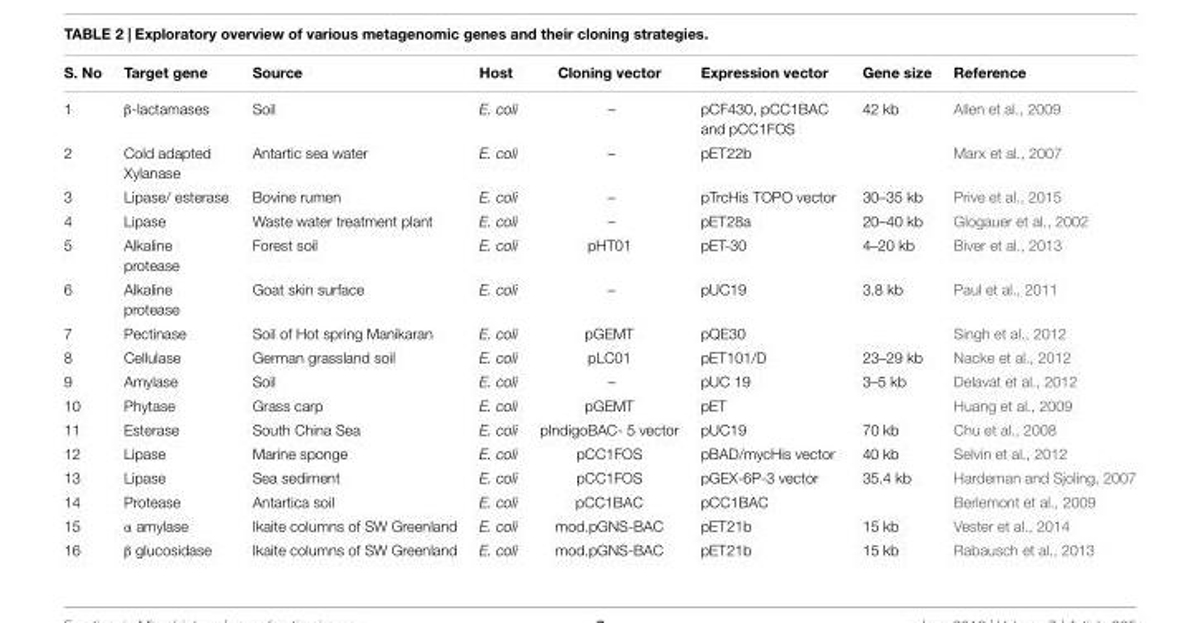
<table><thead><tr><td>S. No</td><td>Target gene</td><td>Source</td><td>Host</td><td>Cloning vector</td><td>Expression vector</td><td>Gene size</td><td>Reference</td></tr></thead><tbody><tr><td>1</td><td>β-lactamases</td><td>Soil</td><td>E. coli</td><td>–</td><td>pCF430, pCC1BAC and pCC1FOS</td><td>42 kb</td><td>Allen et al., 2009</td></tr><tr><td>2</td><td>Cold adapted Xylanase</td><td>Antartic sea water</td><td>E. coli</td><td>–</td><td>pET22b</td><td></td><td>Marx et al., 2007</td></tr><tr><td>3</td><td>Lipase/ esterase</td><td>Bovine rumen</td><td>E. coli</td><td>–</td><td>pTrcHis TOPO vector</td><td>30–35 kb</td><td>Prive et al., 2015</td></tr><tr><td>4</td><td>Lipase</td><td>Waste water treatment plant</td><td>E. coli</td><td>–</td><td>pET28a</td><td>20–40 kb</td><td>Glogauer et al., 2002</td></tr><tr><td>5</td><td>Alkaline protease</td><td>Forest soil</td><td>E. coli</td><td>pHT01</td><td>pET-30</td><td>4–20 kb</td><td>Biver et al., 2013</td></tr><tr><td>6</td><td>Alkaline protease</td><td>Goat skin surface</td><td>E. coli</td><td>–</td><td>pUC19</td><td>3.8 kb</td><td>Paul et al., 2011</td></tr><tr><td>7</td><td>Pectinase</td><td>Soil of Hot spring Manikaran</td><td>E. coli</td><td>pGEMT</td><td>pQE30</td><td></td><td>Singh et al., 2012</td></tr><tr><td>8</td><td>Cellulase</td><td>German grassland soil</td><td>E. coli</td><td>pLC01</td><td>pET101/D</td><td>23–29 kb</td><td>Nacke et al., 2012</td></tr><tr><td>9</td><td>Amylase</td><td>Soil</td><td>E. coli</td><td>–</td><td>pUC 19</td><td>3–5 kb</td><td>Delavat et al., 2012</td></tr><tr><td>10</td><td>Phytase</td><td>Grass carp</td><td>E. coli</td><td>pGEMT</td><td>pET</td><td></td><td>Huang et al., 2009</td></tr><tr><td>11</td><td>Esterase</td><td>South China Sea</td><td>E. coli</td><td>pIndigoBAC- 5 vector</td><td>pUC19</td><td>70 kb</td><td>Chu et al., 2008</td></tr><tr><td>12</td><td>Lipase</td><td>Marine sponge</td><td>E. coli</td><td>pCC1FOS</td><td>pBAD/mycHis vector</td><td>40 kb</td><td>Selvin et al., 2012</td></tr><tr><td>13</td><td>Lipase</td><td>Sea sediment</td><td>E. coli</td><td>pCC1FOS</td><td>pGEX-6P-3 vector</td><td>35.4 kb</td><td>Hardeman and Sjoling, 2007</td></tr><tr><td>14</td><td>Protease</td><td>Antartica soil</td><td>E. coli</td><td>pCC1BAC</td><td>pCC1BAC</td><td></td><td>Berlemont et al., 2009</td></tr><tr><td>15</td><td>α amylase</td><td>Ikaite columns of SW Greenland</td><td>E. coli</td><td>mod.pGNS-BAC</td><td>pET21b</td><td>15 kb</td><td>Vester et al., 2014</td></tr><tr><td>16</td><td>β glucosidase</td><td>Ikaite columns of SW Greenland</td><td>E. coli</td><td>mod.pGNS-BAC</td><td>pET21b</td><td>15 kb</td><td>Rabausch et al., 2013</td></tr></tbody></table>